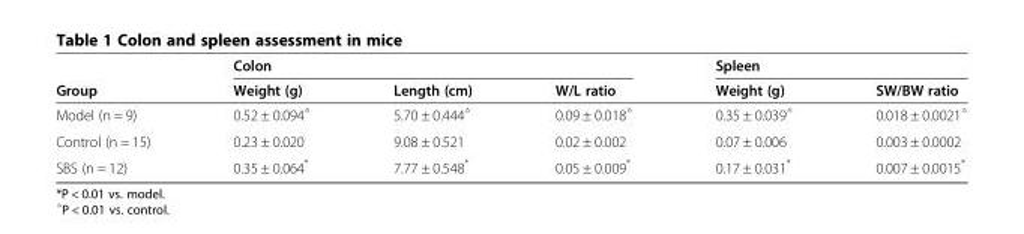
<table><thead><tr><td rowspan="2">Group</td><td colspan="3">Colon</td><td colspan="2">Spleen</td></tr><tr><td>Weight (g)</td><td>Length (cm)</td><td>W/L ratio</td><td>Weight (g)</td><td>SW/BW ratio</td></tr></thead><tbody><tr><td>Model (n = 9)</td><td>0.52 ± 0.094<sup>△</sup></td><td>5.70 ± 0.444<sup>△</sup></td><td>0.09 ± 0.018<sup>△</sup></td><td>0.35 ± 0.039<sup>△</sup></td><td>0.018 ± 0.0021<sup>△</sup></td></tr><tr><td>Control (n = 15)</td><td>0.23 ± 0.020</td><td>9.08 ± 0.521</td><td>0.02 ± 0.002</td><td>0.07 ± 0.006</td><td>0.003 ± 0.0002</td></tr><tr><td>SBS (n = 12)</td><td>0.35 ± 0.064*</td><td>7.77 ± 0.548*</td><td>0.05 ± 0.009*</td><td>0.17 ± 0.031*</td><td>0.007 ± 0.0015*</td></tr></tbody></table>